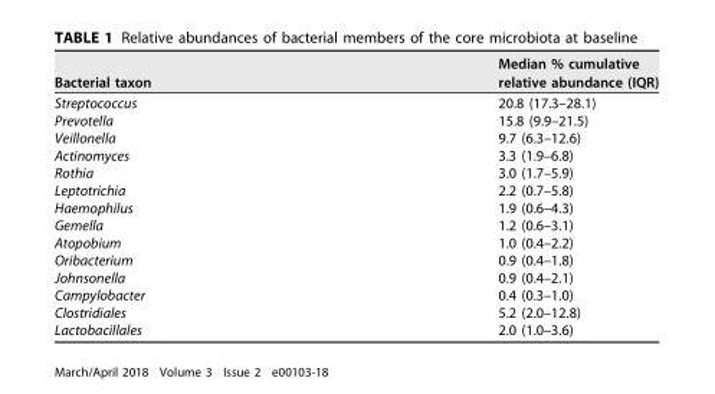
<table><thead><tr><td>Bacterial taxon</td><td>Median % cumulative relative abundance (IQR)</td></tr></thead><tbody><tr><td>Streptococcus</td><td>20.8 (17.3–28.1)</td></tr><tr><td>Prevotella</td><td>15.8 (9.9–21.5)</td></tr><tr><td>Veillonella</td><td>9.7 (6.3–12.6)</td></tr><tr><td>Actinomyces</td><td>3.3 (1.9–6.8)</td></tr><tr><td>Rothia</td><td>3.0 (1.7–5.9)</td></tr><tr><td>Leptotrichia</td><td>2.2 (0.7–5.8)</td></tr><tr><td>Haemophilus</td><td>1.9 (0.6–4.3)</td></tr><tr><td>Gemella</td><td>1.2 (0.6–3.1)</td></tr><tr><td>Atopobium</td><td>1.0 (0.4–2.2)</td></tr><tr><td>Oribacterium</td><td>0.9 (0.4–1.8)</td></tr><tr><td>Johnsonella</td><td>0.9 (0.4–2.1)</td></tr><tr><td>Campylobacter</td><td>0.4 (0.3–1.0)</td></tr><tr><td>Clostridiales</td><td>5.2 (2.0–12.8)</td></tr><tr><td>Lactobacillales</td><td>2.0 (1.0–3.6)</td></tr></tbody></table>